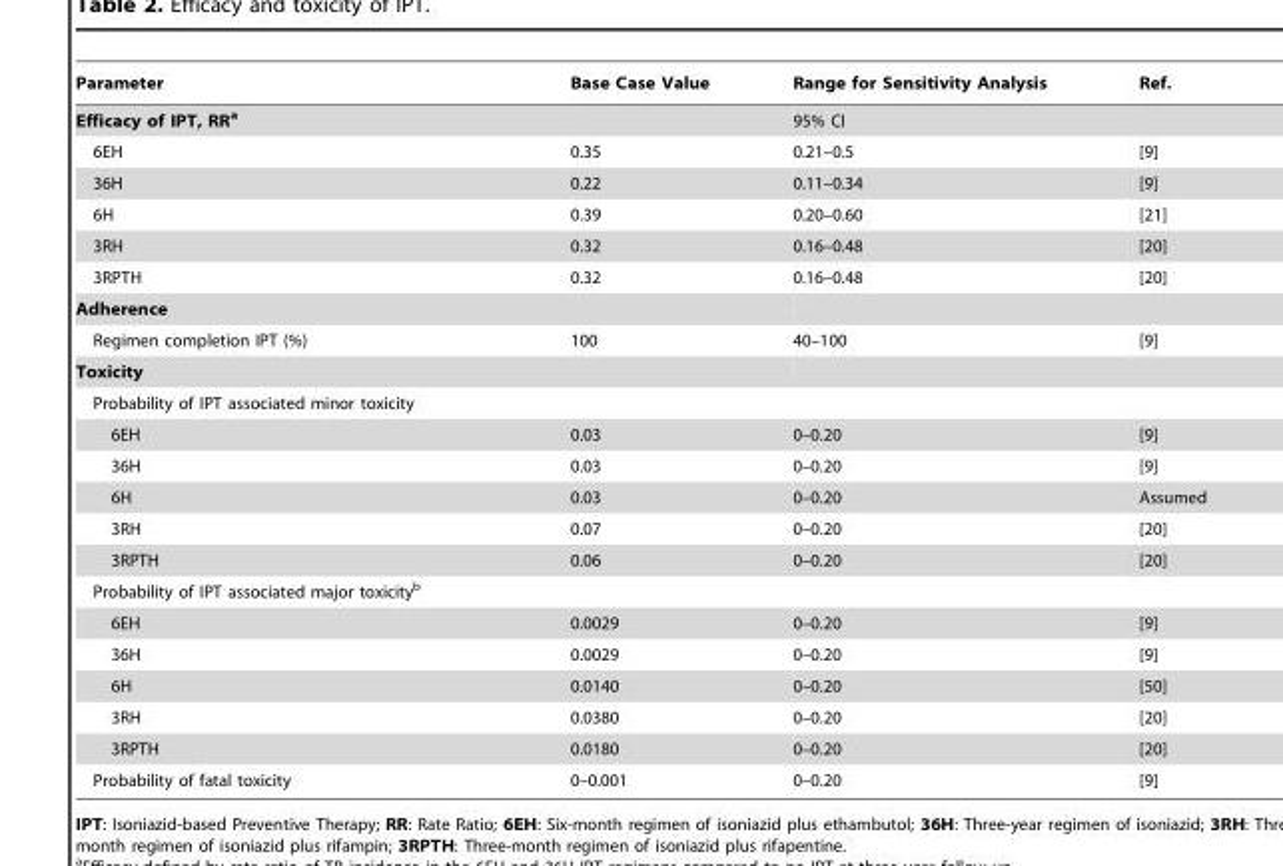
<table><thead><tr><td>Parameter</td><td>Base Case Value</td><td>Range for Sensitivity Analysis</td><td>Ref.</td></tr></thead><tbody><tr><td colspan="2">Efficacy of IPT, RRa</td><td>95% CI</td><td></td></tr><tr><td>6EH</td><td>0.35</td><td>0.21–0.5</td><td>[9]</td></tr><tr><td>36H</td><td>0.22</td><td>0.11–0.34</td><td>[9]</td></tr><tr><td>6H</td><td>0.39</td><td>0.20–0.60</td><td>[21]</td></tr><tr><td>3RH</td><td>0.32</td><td>0.16–0.48</td><td>[20]</td></tr><tr><td>3RPTH</td><td>0.32</td><td>0.16–0.48</td><td>[20]</td></tr><tr><td colspan="4">Adherence</td></tr><tr><td>Regimen completion IPT (%)</td><td>100</td><td>40–100</td><td>[9]</td></tr><tr><td colspan="4">Toxicity</td></tr><tr><td colspan="4">Probability of IPT associated minor toxicity</td></tr><tr><td>6EH</td><td>0.03</td><td>0–0.20</td><td>[9]</td></tr><tr><td>36H</td><td>0.03</td><td>0–0.20</td><td>[9]</td></tr><tr><td>6H</td><td>0.03</td><td>0–0.20</td><td>Assumed</td></tr><tr><td>3RH</td><td>0.07</td><td>0–0.20</td><td>[20]</td></tr><tr><td>3RPTH</td><td>0.06</td><td>0–0.20</td><td>[20]</td></tr><tr><td colspan="4">Probability of IPT associated major toxicity<sup>b</sup></td></tr><tr><td>6EH</td><td>0.0029</td><td>0–0.20</td><td>[9]</td></tr><tr><td>36H</td><td>0.0029</td><td>0–0.20</td><td>[9]</td></tr><tr><td>6H</td><td>0.0140</td><td>0–0.20</td><td>[50]</td></tr><tr><td>3RH</td><td>0.0380</td><td>0–0.20</td><td>[20]</td></tr><tr><td>3RPTH</td><td>0.0180</td><td>0–0.20</td><td>[20]</td></tr><tr><td>Probability of fatal toxicity</td><td>0–0.001</td><td>0–0.20</td><td>[9]</td></tr></tbody></table>